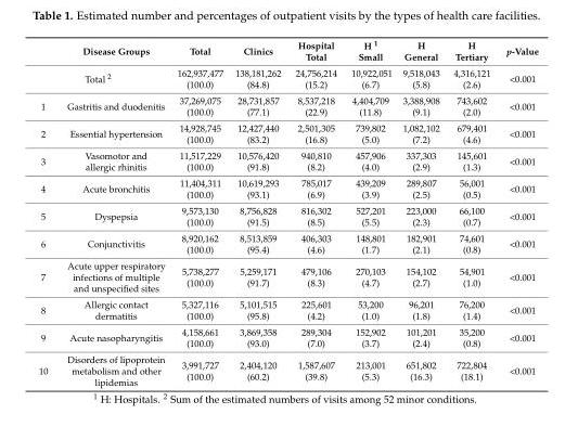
<table><thead><tr><td></td><td>Disease Groups</td><td>Total</td><td>Clinics</td><td>Hospital Total</td><td>H <sup>1</sup> Small</td><td>H General</td><td>H Tertiary</td><td>p-Value</td></tr></thead><tbody><tr><td colspan="2">Total <sup>2</sup></td><td>162,937,477 (100.0)</td><td>138,181,262 (84.8)</td><td>24,756,214 (15.2)</td><td>10,922,051 (6.7)</td><td>9,518,043 (5.8)</td><td>4,316,121 (2.6)</td><td>&lt;0.001</td></tr><tr><td>1</td><td>Gastritis and duodenitis</td><td>37,269,075 (100.0)</td><td>28,731,857 (77.1)</td><td>8,537,218 (22.9)</td><td>4,404,709 (11.8)</td><td>3,388,908 (9.1)</td><td>743,602 (2.0)</td><td>&lt;0.001</td></tr><tr><td>2</td><td>Essential hypertension</td><td>14,928,745 (100.0)</td><td>12,427,440 (83.2)</td><td>2,501,305 (16.8)</td><td>739,802 (5.0)</td><td>1,082,102 (7.2)</td><td>679,401 (4.6)</td><td>&lt;0.001</td></tr><tr><td>3</td><td>Vasomotor and allergic rhinitis</td><td>11,517,229 (100.0)</td><td>10,576,420 (91.8)</td><td>940,810 (8.2)</td><td>457,906 (4.0)</td><td>337,303 (2.9)</td><td>145,601 (1.3)</td><td>&lt;0.001</td></tr><tr><td>4</td><td>Acute bronchitis</td><td>11,404,311 (100.0)</td><td>10,619,293 (93.1)</td><td>785,017 (6.9)</td><td>439,209 (3.9)</td><td>289,807 (2.5)</td><td>56,001 (0.5)</td><td>&lt;0.001</td></tr><tr><td>5</td><td>Dyspepsia</td><td>9,573,130 (100.0)</td><td>8,756,828 (91.5)</td><td>816,302 (8.5)</td><td>527,201 (5.5)</td><td>223,000 (2.3)</td><td>66,100 (0.7)</td><td>&lt;0.001</td></tr><tr><td>6</td><td>Conjunctivitis</td><td>8,920,162 (100.0)</td><td>8,513,859 (95.4)</td><td>406,303 (4.6)</td><td>148,801 (1.7)</td><td>182,901 (2.1)</td><td>74,601 (0.8)</td><td>&lt;0.001</td></tr><tr><td>7</td><td>Acute upper respiratory infections of multiple and unspecified sites</td><td>5,738,277 (100.0)</td><td>5,259,171 (91.7)</td><td>479,106 (8.3)</td><td>270,103 (4.7)</td><td>154,102 (2.7)</td><td>54,901 (1.0)</td><td>&lt;0.001</td></tr><tr><td>8</td><td>Allergic contact dermatitis</td><td>5,327,116 (100.0)</td><td>5,101,515 (95.8)</td><td>225,601 (4.2)</td><td>53,200 (1.0)</td><td>96,201 (1.8)</td><td>76,200 (1.4)</td><td>&lt;0.001</td></tr><tr><td>9</td><td>Acute nasopharyngitis</td><td>4,158,661 (100.0)</td><td>3,869,358 (93.0)</td><td>289,304 (7.0)</td><td>152,902 (3.7)</td><td>101,201 (2.4)</td><td>35,200 (0.8)</td><td>&lt;0.001</td></tr><tr><td>10</td><td>Disorders of lipoprotein metabolism and other lipidemias</td><td>3,991,727 (100.0)</td><td>2,404,120 (60.2)</td><td>1,587,607 (39.8)</td><td>213,001 (5.3)</td><td>651,802 (16.3)</td><td>722,804 (18.1)</td><td>&lt;0.001</td></tr></tbody></table>